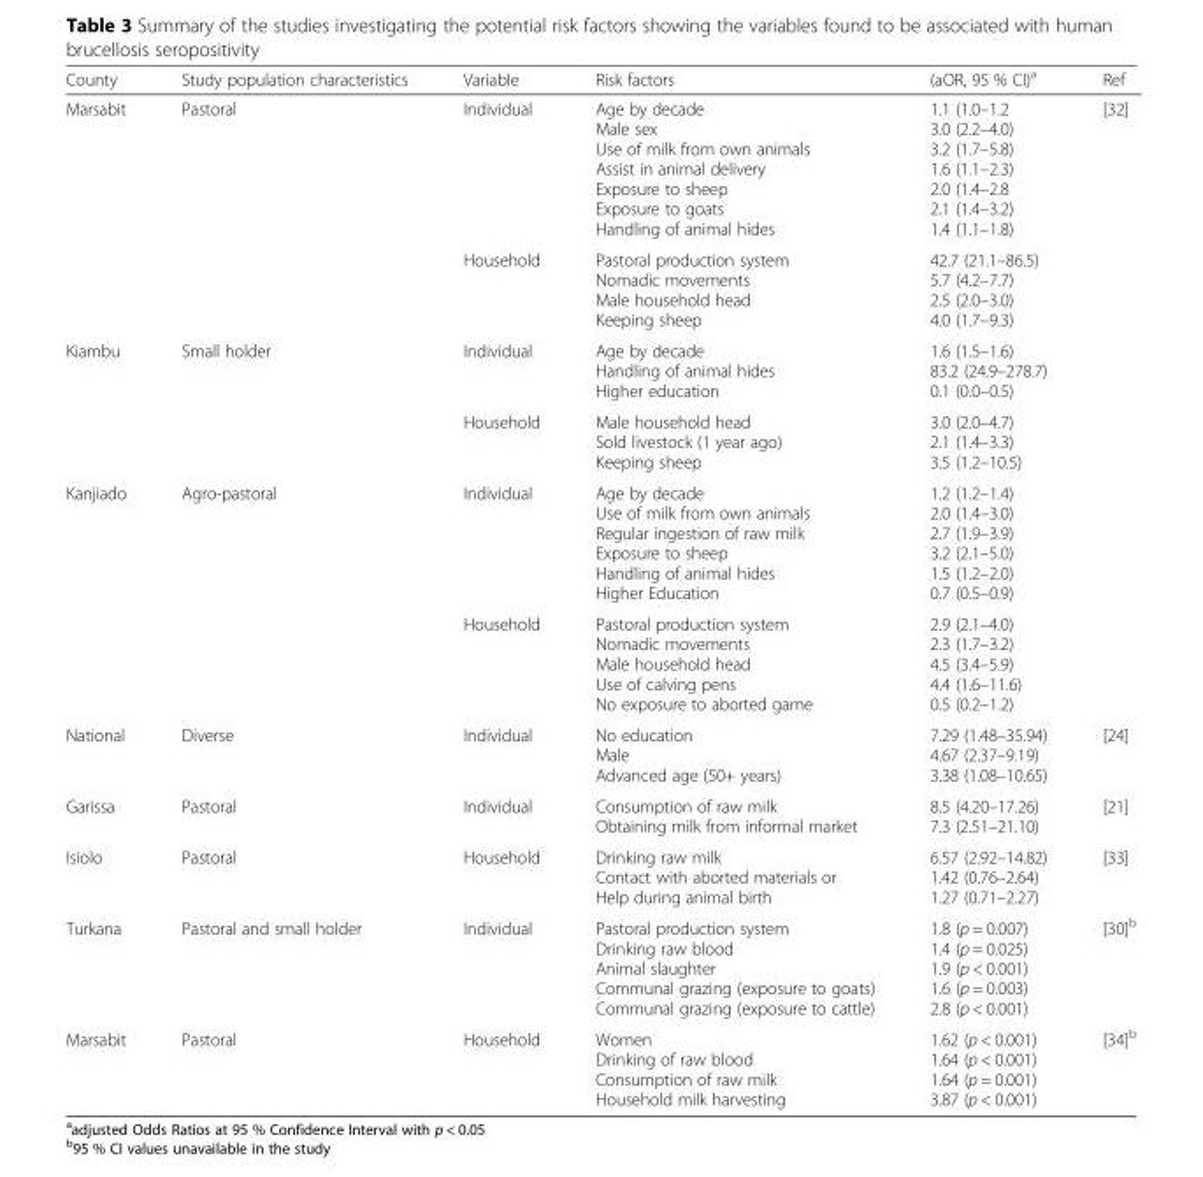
<table><thead><tr><td>County</td><td>Study population characteristics</td><td>Variable</td><td>Risk factors</td><td>(aOR, 95 % CI)<sup>a</sup></td><td>Ref</td></tr></thead><tbody><tr><td rowspan="2">Marsabit</td><td rowspan="2">Pastoral</td><td>Individual</td><td>Age by decade Male sex Use of milk from own animals Assist in animal delivery Exposure to sheep Exposure to goats Handling of animal hides</td><td>1.1 (1.0–1.2 3.0 (2.2–4.0) 3.2 (1.7–5.8) 1.6 (1.1–2.3) 2.0 (1.4–2.8 2.1 (1.4–3.2) 1.4 (1.1–1.8)</td><td rowspan="6">[32]</td></tr><tr><td>Household</td><td>Pastoral production system Nomadic movements Male household head Keeping sheep</td><td>42.7 (21.1–86.5) 5.7 (4.2–7.7) 2.5 (2.0–3.0) 4.0 (1.7–9.3)</td></tr><tr><td rowspan="2">Kiambu</td><td rowspan="2">Small holder</td><td>Individual</td><td>Age by decade Handling of animal hides Higher education</td><td>1.6 (1.5–1.6) 83.2 (24.9–278.7) 0.1 (0.0–0.5)</td></tr><tr><td>Household</td><td>Male household head Sold livestock (1 year ago) Keeping sheep</td><td>3.0 (2.0–4.7) 2.1 (1.4–3.3) 3.5 (1.2–10.5)</td></tr><tr><td rowspan="2">Kanjiado</td><td rowspan="2">Agro-pastoral</td><td>Individual</td><td>Age by decade Use of milk from own animals Regular ingestion of raw milk Exposure to sheep Handling of animal hides Higher Education</td><td>1.2 (1.2–1.4) 2.0 (1.4–3.0) 2.7 (1.9–3.9) 3.2 (2.1–5.0) 1.5 (1.2–2.0) 0.7 (0.5–0.9)</td></tr><tr><td>Household</td><td>Pastoral production system Nomadic movements Male household head Use of calving pens No exposure to aborted game</td><td>2.9 (2.1–4.0) 2.3 (1.7–3.2) 4.5 (3.4–5.9) 4.4 (1.6–11.6) 0.5 (0.2–1.2)</td></tr><tr><td>National</td><td>Diverse</td><td>Individual</td><td>No education Male Advanced age (50+ years)</td><td>7.29 (1.48–35.94) 4.67 (2.37–9.19) 3.38 (1.08–10.65)</td><td>[24]</td></tr><tr><td>Garissa</td><td>Pastoral</td><td>Individual</td><td>Consumption of raw milk Obtaining milk from informal market</td><td>8.5 (4.20–17.26) 7.3 (2.51–21.10)</td><td>[21]</td></tr><tr><td>Isiolo</td><td>Pastoral</td><td>Household</td><td>Drinking raw milk Contact with aborted materials or Help during animal birth</td><td>6.57 (2.92–14.82) 1.42 (0.76–2.64) 1.27 (0.71–2.27)</td><td>[33]</td></tr><tr><td>Turkana</td><td>Pastoral and small holder</td><td>Individual</td><td>Pastoral production system Drinking raw blood Animal slaughter Communal grazing (exposure to goats) Communal grazing (exposure to cattle)</td><td>1.8 (p = 0.007) 1.4 (p = 0.025) 1.9 (p &lt; 0.001) 1.6 (p = 0.003) 2.8 (p &lt; 0.001)</td><td>[30]<sup>b</sup></td></tr><tr><td>Marsabit</td><td>Pastoral</td><td>Household</td><td>Women Drinking of raw blood Consumption of raw milk Household milk harvesting</td><td>1.62 (p &lt; 0.001) 1.64 (p &lt; 0.001) 1.64 (p = 0.001) 3.87 (p &lt; 0.001)</td><td>[34]<sup>b</sup></td></tr></tbody></table>